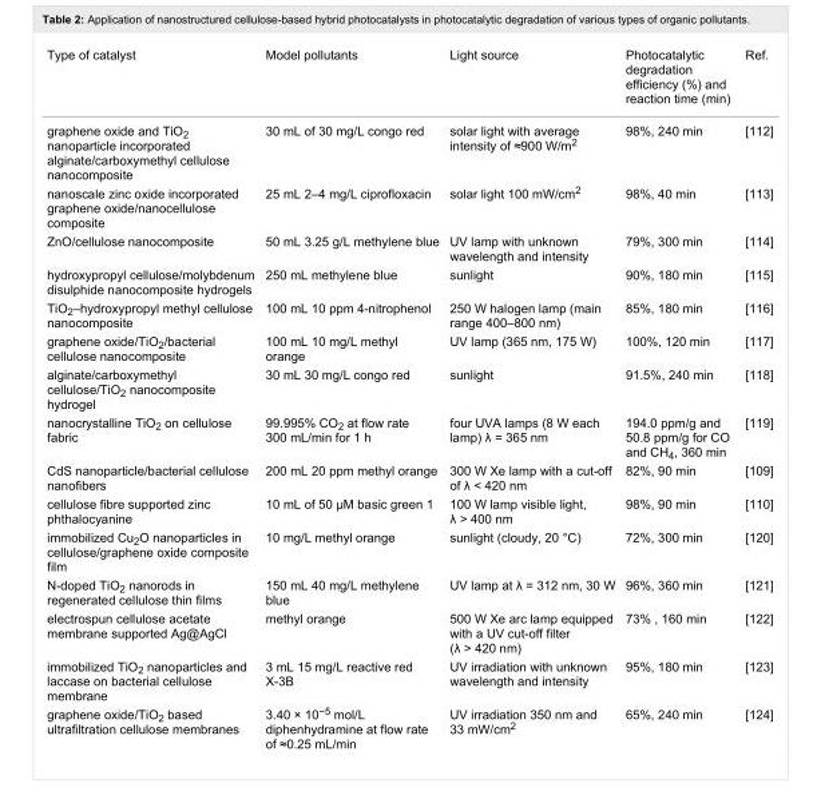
<table><tbody><tr><td>Type of catalyst</td><td>Model pollutants</td><td>Light source</td><td>Photocatalytic degradation efficiency (%) and reaction time (min)</td><td>Ref.</td></tr><tr><td>graphene oxide and TiO<sub>2</sub> nanoparticle incorporated alginate/carboxymethyl cellulose nanocomposite</td><td>30 mL of 30 mg/L congo red</td><td>solar light with average intensity of ≈900 W/m<sup>2</sup></td><td>98%, 240 min</td><td>[112]</td></tr><tr><td>nanoscale zinc oxide incorporated graphene oxide/nanocellulose composite</td><td>25 mL 2–4 mg/L ciprofloxacin</td><td>solar light 100 mW/cm<sup>2</sup></td><td>98%, 40 min</td><td>[113]</td></tr><tr><td>ZnO/cellulose nanocomposite</td><td>50 mL 3.25 g/L methylene blue</td><td>UV lamp with unknown wavelength and intensity</td><td>79%, 300 min</td><td>[114]</td></tr><tr><td>hydroxypropyl cellulose/molybdenum disulphide nanocomposite hydrogels</td><td>250 mL methylene blue</td><td>sunlight</td><td>90%, 180 min</td><td>[115]</td></tr><tr><td>TiO<sub>2</sub>–hydroxypropyl methyl cellulose nanocomposite</td><td>100 mL 10 ppm 4-nitrophenol</td><td>250 W halogen lamp (main range 400–800 nm)</td><td>85%, 180 min</td><td>[116]</td></tr><tr><td>graphene oxide/TiO<sub>2</sub>/bacterial cellulose nanocomposite</td><td>100 mL 10 mg/L methyl orange</td><td>UV lamp (365 nm, 175 W)</td><td>100%, 120 min</td><td>[117]</td></tr><tr><td>alginate/carboxymethyl cellulose/TiO<sub>2</sub> nanocomposite hydrogel</td><td>30 mL 30 mg/L congo red</td><td>sunlight</td><td>91.5%, 240 min</td><td>[118]</td></tr><tr><td>nanocrystalline TiO<sub>2</sub> on cellulose fabric</td><td>99.995% CO<sub>2</sub> at flow rate 300 mL/min for 1 h</td><td>four UVA lamps (8 W each lamp) λ = 365 nm</td><td>194.0 ppm/g and 50.8 ppm/g for CO and CH<sub>4</sub>, 360 min</td><td>[119]</td></tr><tr><td>CdS nanoparticle/bacterial cellulose nanofibers</td><td>200 mL 20 ppm methyl orange</td><td>300 W Xe lamp with a cut-off of λ &lt; 420 nm</td><td>82%, 90 min</td><td>[109]</td></tr><tr><td>cellulose fibre supported zinc phthalocyanine</td><td>10 mL of 50 μM basic green 1</td><td>100 W lamp visible light, λ &gt; 400 nm</td><td>98%, 90 min</td><td>[110]</td></tr><tr><td>immobilized Cu<sub>2</sub>O nanoparticles in cellulose/graphene oxide composite film</td><td>10 mg/L methyl orange</td><td>sunlight (cloudy, 20 °C)</td><td>72%, 300 min</td><td>[120]</td></tr><tr><td>N-doped TiO<sub>2</sub> nanorods in regenerated cellulose thin films</td><td>150 mL 40 mg/L methylene blue</td><td>UV lamp at λ = 312 nm, 30 W</td><td>96%, 360 min</td><td>[121]</td></tr><tr><td>electrospun cellulose acetate membrane supported Ag@AgCl</td><td>methyl orange</td><td>500 W Xe arc lamp equipped with a UV cut-off filter (λ &gt; 420 nm)</td><td>73% , 160 min</td><td>[122]</td></tr><tr><td>immobilized TiO<sub>2</sub> nanoparticles and laccase on bacterial cellulose membrane</td><td>3 mL 15 mg/L reactive red X-3B</td><td>UV irradiation with unknown wavelength and intensity</td><td>95%, 180 min</td><td>[123]</td></tr><tr><td>graphene oxide/TiO<sub>2</sub> based ultrafiltration cellulose membranes</td><td>3.40 × 10<sup>−5</sup> mol/L diphenhydramine at flow rate of ≈0.25 mL/min</td><td>UV irradiation 350 nm and 33 mW/cm<sup>2</sup></td><td>65%, 240 min</td><td>[124]</td></tr></tbody></table>